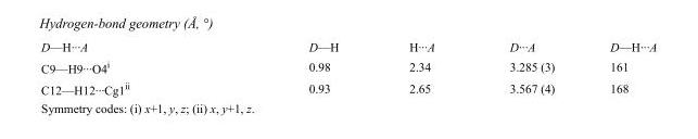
<table><tbody><tr><td>D—H···A</td><td>D—H</td><td>H···A</td><td>D···A</td><td>D—H···A</td></tr><tr><td>C9—H9···O4<sup>i</sup></td><td>0.98</td><td>2.34</td><td>3.285 (3)</td><td>161</td></tr><tr><td>C12—H12···Cg1<sup>ii</sup></td><td>0.93</td><td>2.65</td><td>3.567 (4)</td><td>168</td></tr></tbody></table>